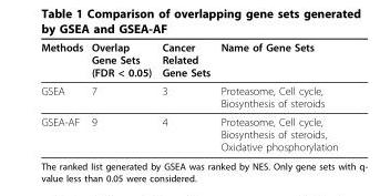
<table><thead><tr><td>Methods</td><td>Overlap Gene Sets (FDR &lt; 0.05)</td><td>Cancer Related Gene Sets</td><td>Name of Gene Sets</td></tr></thead><tbody><tr><td>GSEA</td><td>7</td><td>3</td><td>Proteasome, Cell cycle, Biosynthesis of steroids</td></tr><tr><td>GSEA-AF</td><td>9</td><td>4</td><td>Proteasome, Cell cycle, Biosynthesis of steroids, Oxidative phosphorylation</td></tr></tbody></table>